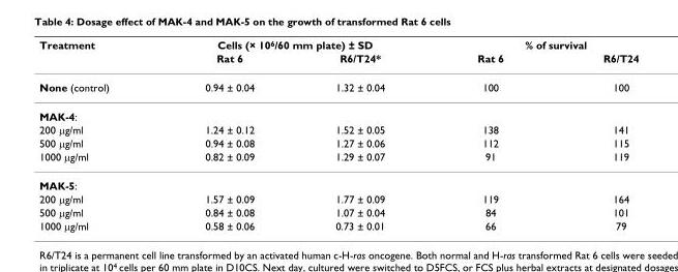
<table><thead><tr><td rowspan="2">Treatment</td><td colspan="2">Cells (× 10<sup>6</sup>/60 mm plate) ± SD</td><td colspan="2">% of survival</td></tr><tr><td>Rat 6</td><td>R6/T24*</td><td>Rat 6</td><td>R6/T24</td></tr></thead><tbody><tr><td>None (control)</td><td>0.94 ± 0.04</td><td>1.32 ± 0.04</td><td>100</td><td>100</td></tr><tr><td colspan="5">MAK-4:</td></tr><tr><td>200 µg/ml</td><td>1.24 ± 0.12</td><td>1.52 ± 0.05</td><td>138</td><td>141</td></tr><tr><td>500 µg/ml</td><td>0.94 ± 0.08</td><td>1.27 ± 0.06</td><td>112</td><td>115</td></tr><tr><td>1000 µg/ml</td><td>0.82 ± 0.09</td><td>1.29 ± 0.07</td><td>91</td><td>119</td></tr><tr><td colspan="5">MAK-5:</td></tr><tr><td>200 µg/ml</td><td>1.57 ± 0.09</td><td>1.77 ± 0.09</td><td>119</td><td>164</td></tr><tr><td>500 µg/ml</td><td>0.84 ± 0.08</td><td>1.07 ± 0.04</td><td>84</td><td>101</td></tr><tr><td>1000 µg/ml</td><td>0.58 ± 0.06</td><td>0.73 ± 0.01</td><td>66</td><td>79</td></tr></tbody></table>